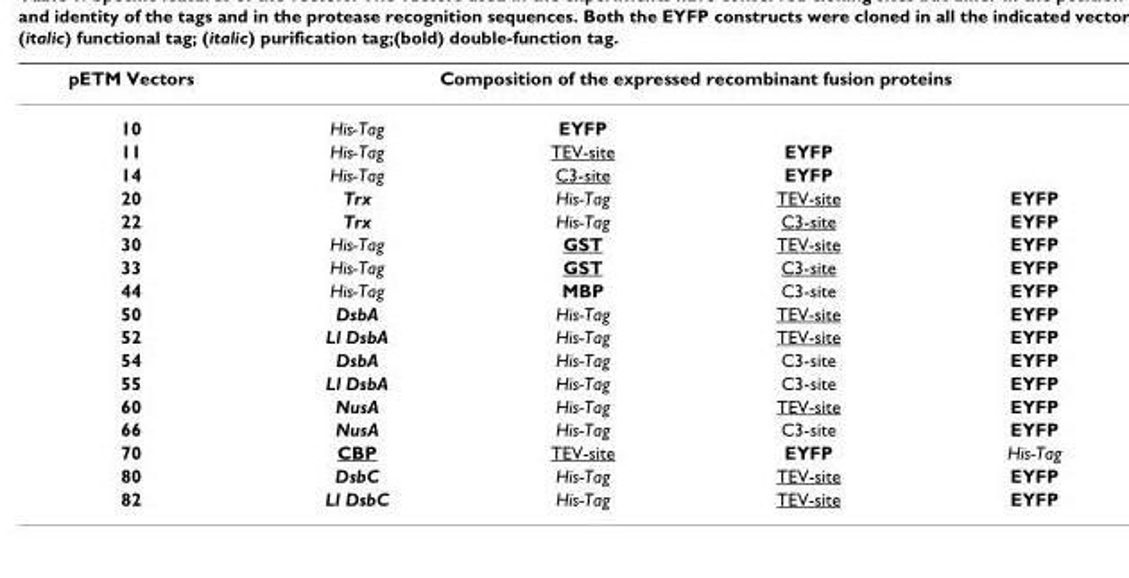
<table><thead><tr><td rowspan="2">pETM Vectors 10</td><td colspan="4">Composition of the expressed recombinant fusion proteins</td></tr><tr><td>His-Tag</td><td>EYFP</td><td></td><td></td></tr></thead><tbody><tr><td>11</td><td>His-Tag</td><td>TEV-site</td><td>EYFP</td><td></td></tr><tr><td>14</td><td>His-Tag</td><td>C3-site</td><td>EYFP</td><td></td></tr><tr><td>20</td><td>Trx</td><td>His-Tag</td><td>TEV-site</td><td>EYFP</td></tr><tr><td>22</td><td>Trx</td><td>His-Tag</td><td>C3-site</td><td>EYFP</td></tr><tr><td>30</td><td>His-Tag</td><td>GST</td><td>TEV-site</td><td>EYFP</td></tr><tr><td>33</td><td>His-Tag</td><td>GST</td><td>C3-site</td><td>EYFP</td></tr><tr><td>44</td><td>His-Tag</td><td>MBP</td><td>C3-site</td><td>EYFP</td></tr><tr><td>50</td><td>DsbA</td><td>His-Tag</td><td>TEV-site</td><td>EYFP</td></tr><tr><td>52</td><td>Ll DsbA</td><td>His-Tag</td><td>TEV-site</td><td>EYFP</td></tr><tr><td>54</td><td>DsbA</td><td>His-Tag</td><td>C3-site</td><td>EYFP</td></tr><tr><td>55</td><td>Ll DsbA</td><td>His-Tag</td><td>C3-site</td><td>EYFP</td></tr><tr><td>60</td><td>NusA</td><td>His-Tag</td><td>TEV-site</td><td>EYFP</td></tr><tr><td>66</td><td>NusA</td><td>His-Tag</td><td>C3-site</td><td>EYFP</td></tr><tr><td>70</td><td>CBP</td><td>TEV-site</td><td>EYFP</td><td>His-Tag</td></tr><tr><td>80</td><td>DsbC</td><td>His-Tag</td><td>TEV-site</td><td>EYFP</td></tr><tr><td>82</td><td>Ll DsbC</td><td>His-Tag</td><td>TEV-site</td><td>EYFP</td></tr></tbody></table>